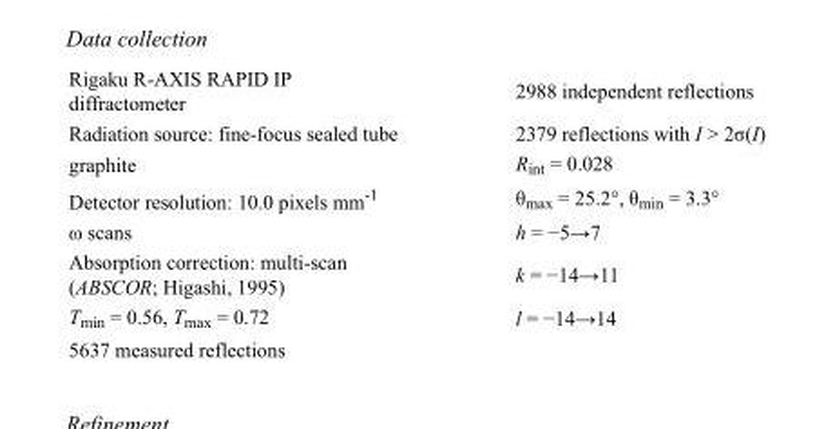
<table><tbody><tr><td>Rigaku R-AXIS RAPID IP diffractometer</td><td>2988 independent reflections</td></tr><tr><td>Radiation source: fine-focus sealed tube</td><td>2379 reflections with I &gt; 2σ(I)</td></tr><tr><td>graphite</td><td>R<sub>int</sub> = 0.028</td></tr><tr><td>Detector resolution: 10.0 pixels mm<sup>-1</sup></td><td>θ<sub>max</sub> = 25.2°, θ<sub>min</sub> = 3.3°</td></tr><tr><td>ω scans</td><td>h = −5→7</td></tr><tr><td>Absorption correction: multi-scan (ABSCOR; Higashi, 1995)</td><td>k = −14→11</td></tr><tr><td>T<sub>min</sub> = 0.56, T<sub>max</sub> = 0.72</td><td>l = −14→14</td></tr><tr><td>5637 measured reflections</td><td></td></tr></tbody></table>